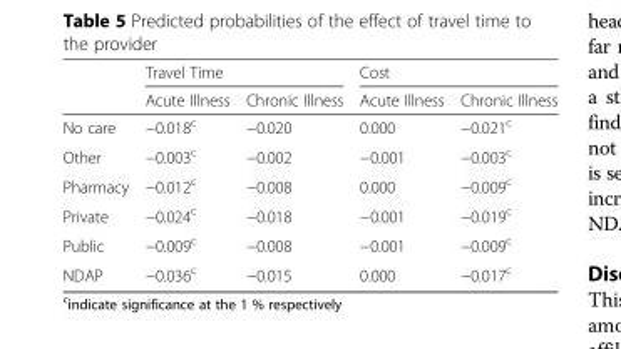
<table><thead><tr><td rowspan="2"></td><td colspan="2">Travel Time</td><td colspan="2">Cost</td></tr><tr><td>Acute Illness</td><td>Chronic Illness</td><td>Acute Illness</td><td>Chronic Illness</td></tr></thead><tbody><tr><td>No care</td><td>−0.018<sup>c</sup></td><td>−0.020</td><td>0.000</td><td>−0.021<sup>c</sup></td></tr><tr><td>Other</td><td>−0.003<sup>c</sup></td><td>−0.002</td><td>−0.001</td><td>−0.003<sup>c</sup></td></tr><tr><td>Pharmacy</td><td>−0.012<sup>c</sup></td><td>−0.008</td><td>0.000</td><td>−0.009<sup>c</sup></td></tr><tr><td>Private</td><td>−0.024<sup>c</sup></td><td>−0.018</td><td>−0.001</td><td>−0.019<sup>c</sup></td></tr><tr><td>Public</td><td>−0.009<sup>c</sup></td><td>−0.008</td><td>−0.001</td><td>−0.009<sup>c</sup></td></tr><tr><td>NDAP</td><td>−0.036<sup>c</sup></td><td>−0.015</td><td>0.000</td><td>−0.017<sup>c</sup></td></tr></tbody></table>